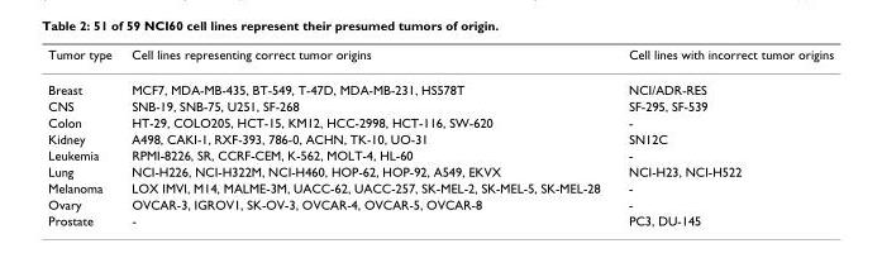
<table><thead><tr><td>Tumor type</td><td>Cell lines representing correct tumor origins</td><td>Cell lines with incorrect tumor origins</td></tr></thead><tbody><tr><td>Breast</td><td>MCF7, MDA-MB-435, BT-549, T-47D, MDA-MB-231, HS578T</td><td>NCI/ADR-RES</td></tr><tr><td>CNS</td><td>SNB-19, SNB-75, U251, SF-268</td><td>SF-295, SF-539</td></tr><tr><td>Colon</td><td>HT-29, COLO205, HCT-15, KM12, HCC-2998, HCT-116, SW-620</td><td>-</td></tr><tr><td>Kidney</td><td>A498, CAKI-1, RXF-393, 786-0, ACHN, TK-10, UO-31</td><td>SN12C</td></tr><tr><td>Leukemia</td><td>RPMI-8226, SR, CCRF-CEM, K-562, MOLT-4, HL-60</td><td>-</td></tr><tr><td>Lung</td><td>NCI-H226, NCI-H322M, NCI-H460, HOP-62, HOP-92, A549, EKVX</td><td>NCI-H23, NCI-H522</td></tr><tr><td>Melanoma</td><td>LOX IMVI, M14, MALME-3M, UACC-62, UACC-257, SK-MEL-2, SK-MEL-5, SK-MEL-28</td><td>-</td></tr><tr><td>Ovary</td><td>OVCAR-3, IGROV1, SK-OV-3, OVCAR-4, OVCAR-5, OVCAR-8</td><td>-</td></tr><tr><td>Prostate</td><td>-</td><td>PC3, DU-145</td></tr></tbody></table>